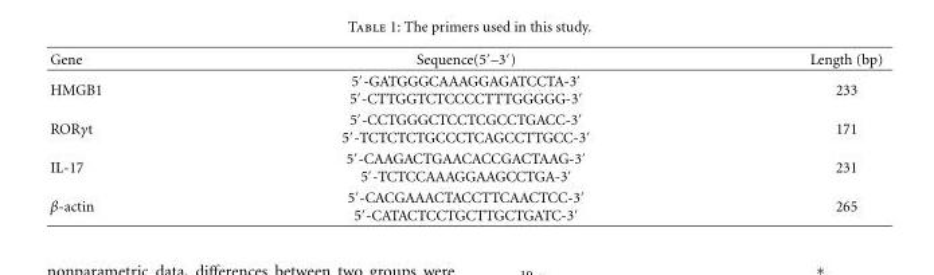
<table><thead><tr><td>Gene</td><td>Sequence(5′–3′)</td><td>Length (bp)</td></tr></thead><tbody><tr><td>HMGB1</td><td>5′-GATGGGCAAAGGAGATCCTA-3′ 5′-CTTGGTCTCCCCTTTGGGGG-3′</td><td>233</td></tr><tr><td>RORγt</td><td>5′-CCTGGGCTCCTCGCCTGACC-3′ 5′-TCTCTCTGCCCTCAGCCTTGCC-3′</td><td>171</td></tr><tr><td>IL-17</td><td>5′-CAAGACTGAACACCGACTAAG-3′ 5′-TCTCCAAAGGAAGCCTGA-3′</td><td>231</td></tr><tr><td>β-actin</td><td>5′-CACGAAACTACCTTCAACTCC-3′ 5′-CATACTCCTGCTTGCTGATC-3′</td><td>265</td></tr></tbody></table>